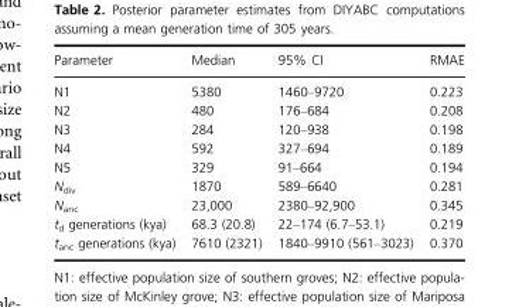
<table><thead><tr><td>Parameter</td><td>Median</td><td>95% CI</td><td>RMAE</td></tr></thead><tbody><tr><td>N1</td><td>5380</td><td>1460–9720</td><td>0.223</td></tr><tr><td>N2</td><td>480</td><td>176–684</td><td>0.208</td></tr><tr><td>N3</td><td>284</td><td>120–938</td><td>0.198</td></tr><tr><td>N4</td><td>592</td><td>327–694</td><td>0.189</td></tr><tr><td>N5</td><td>329</td><td>91–664</td><td>0.194</td></tr><tr><td>N<sub>div</sub></td><td>1870</td><td>589–6640</td><td>0.281</td></tr><tr><td>N<sub>anc</sub></td><td>23,000</td><td>2380–92,900</td><td>0.345</td></tr><tr><td>t<sub>d</sub> generations (kya)</td><td>68.3 (20.8)</td><td>22–174 (6.7–53.1)</td><td>0.219</td></tr><tr><td>t<sub>anc</sub> generations (kya)</td><td>7610 (2321)</td><td>1840–9910 (561–3023)</td><td>0.370</td></tr></tbody></table>